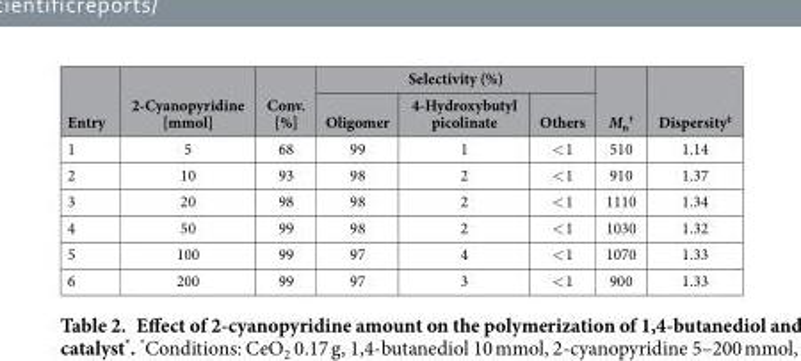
<table><thead><tr><td rowspan="2">Entry</td><td rowspan="2">2-Cyanopyridine [mmol]</td><td rowspan="2">Conv. [%]</td><td colspan="3">Selectivity (%)</td><td rowspan="2">M<sub>n</sub> †</td><td rowspan="2">Dispersity‡</td></tr><tr><td>Oligomer</td><td>4-Hydroxybutyl picolinate</td><td>Others</td></tr></thead><tbody><tr><td>1</td><td>5</td><td>68</td><td>99</td><td>1</td><td>&lt; 1</td><td>510</td><td>1.14</td></tr><tr><td>2</td><td>10</td><td>93</td><td>98</td><td>2</td><td>&lt; 1</td><td>910</td><td>1.37</td></tr><tr><td>3</td><td>20</td><td>98</td><td>98</td><td>2</td><td>&lt; 1</td><td>1110</td><td>1.34</td></tr><tr><td>4</td><td>50</td><td>99</td><td>98</td><td>2</td><td>&lt; 1</td><td>1030</td><td>1.32</td></tr><tr><td>5</td><td>100</td><td>99</td><td>97</td><td>4</td><td>&lt; 1</td><td>1070</td><td>1.33</td></tr><tr><td>6</td><td>200</td><td>99</td><td>97</td><td>3</td><td>&lt; 1</td><td>900</td><td>1.33</td></tr></tbody></table>